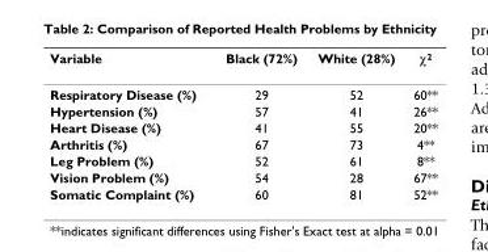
<table><thead><tr><td>Variable</td><td>Black (72%)</td><td>White (28%)</td><td>χ<sup>2</sup></td></tr></thead><tbody><tr><td>Respiratory Disease (%)</td><td>29</td><td>52</td><td>60**</td></tr><tr><td>Hypertension (%)</td><td>57</td><td>41</td><td>26**</td></tr><tr><td>Heart Disease (%)</td><td>41</td><td>55</td><td>20**</td></tr><tr><td>Arthritis (%)</td><td>67</td><td>73</td><td>4**</td></tr><tr><td>Leg Problem (%)</td><td>52</td><td>61</td><td>8**</td></tr><tr><td>Vision Problem (%)</td><td>54</td><td>28</td><td>67**</td></tr><tr><td>Somatic Complaint (%)</td><td>60</td><td>81</td><td>52**</td></tr></tbody></table>